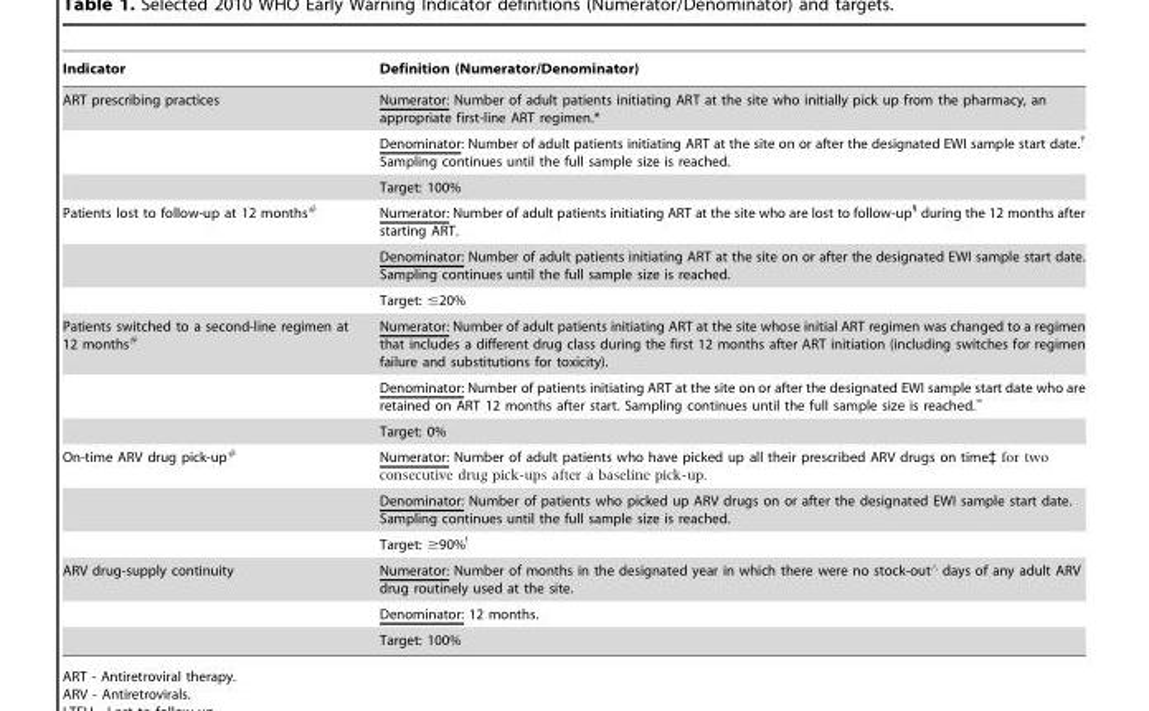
<table><thead><tr><td>Indicator</td><td>Definition (Numerator/Denominator)</td></tr></thead><tbody><tr><td rowspan="3">ART prescribing practices</td><td>Numerator: Number of adult patients initiating ART at the site who initially pick up from the pharmacy, an appropriate first-line ART regimen.*</td></tr><tr><td>Denominator: Number of adult patients initiating ART at the site on or after the designated EWI sample start date.† Sampling continues until the full sample size is reached.</td></tr><tr><td>Target: 100%</td></tr><tr><td rowspan="3">Patients lost to follow-up at 12 months#</td><td>Numerator: Number of adult patients initiating ART at the site who are lost to follow-up§ during the 12 months after starting ART.</td></tr><tr><td>Denominator: Number of adult patients initiating ART at the site on or after the designated EWI sample start date. Sampling continues until the full sample size is reached.</td></tr><tr><td>Target: ≤20%</td></tr><tr><td rowspan="3">Patients switched to a second-line regimen at 12 months#</td><td>Numerator: Number of adult patients initiating ART at the site whose initial ART regimen was changed to a regimen that includes a different drug class during the first 12 months after ART initiation (including switches for regimen failure and substitutions for toxicity).</td></tr><tr><td>Denominator: Number of patients initiating ART at the site on or after the designated EWI sample start date who are retained on ART 12 months after start. Sampling continues until the full sample size is reached.‘</td></tr><tr><td>Target: 0%</td></tr><tr><td rowspan="3">On-time ARV drug pick-up#</td><td>Numerator: Number of adult patients who have picked up all their prescribed ARV drugs on time‡ for two consecutive drug pick-ups after a baseline pick-up.</td></tr><tr><td>Denominator: Number of patients who picked up ARV drugs on or after the designated EWI sample start date. Sampling continues until the full sample size is reached.</td></tr><tr><td>Target: ≥90%!</td></tr><tr><td rowspan="3">ARV drug-supply continuity</td><td>Numerator: Number of months in the designated year in which there were no stock-out‘ days of any adult ARV drug routinely used at the site.</td></tr><tr><td>Denominator: 12 months.</td></tr><tr><td>Target: 100%</td></tr></tbody></table>